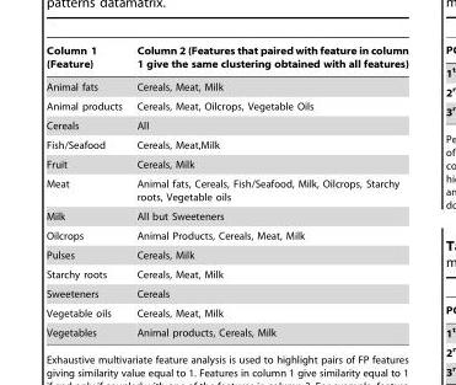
<table><thead><tr><td>Column 1 (Feature)</td><td>Column 2 (Features that paired with feature in column 1 give the same clustering obtained with all features)</td></tr></thead><tbody><tr><td>Animal fats</td><td>Cereals, Meat, Milk</td></tr><tr><td>Animal products</td><td>Cereals, Meat, Oilcrops, Vegetable Oils</td></tr><tr><td>Cereals</td><td>All</td></tr><tr><td>Fish/Seafood</td><td>Cereals, Meat,Milk</td></tr><tr><td>Fruit</td><td>Cereals, Milk</td></tr><tr><td>Meat</td><td>Animal fats, Cereals, Fish/Seafood, Milk, Oilcrops, Starchy roots, Vegetable oils</td></tr><tr><td>Milk</td><td>All but Sweeteners</td></tr><tr><td>Oilcrops</td><td>Animal Products, Cereals, Meat, Milk</td></tr><tr><td>Pulses</td><td>Cereals, Milk</td></tr><tr><td>Starchy roots</td><td>Cereals, Meat, Milk</td></tr><tr><td>Sweeteners</td><td>Cereals</td></tr><tr><td>Vegetable oils</td><td>Cereals, Meat, Milk</td></tr><tr><td>Vegetables</td><td>Animal products, Cereals, Milk</td></tr></tbody></table>